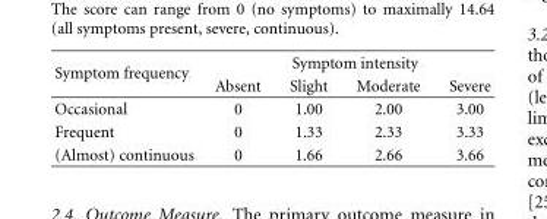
<table><thead><tr><td rowspan="2">Symptom frequency</td><td colspan="4">Symptom intensity</td></tr><tr><td>Absent</td><td>Slight</td><td>Moderate</td><td>Severe</td></tr></thead><tbody><tr><td>Occasional</td><td>0</td><td>1.00</td><td>2.00</td><td>3.00</td></tr><tr><td>Frequent</td><td>0</td><td>1.33</td><td>2.33</td><td>3.33</td></tr><tr><td>(Almost) continuous</td><td>0</td><td>1.66</td><td>2.66</td><td>3.66</td></tr></tbody></table>